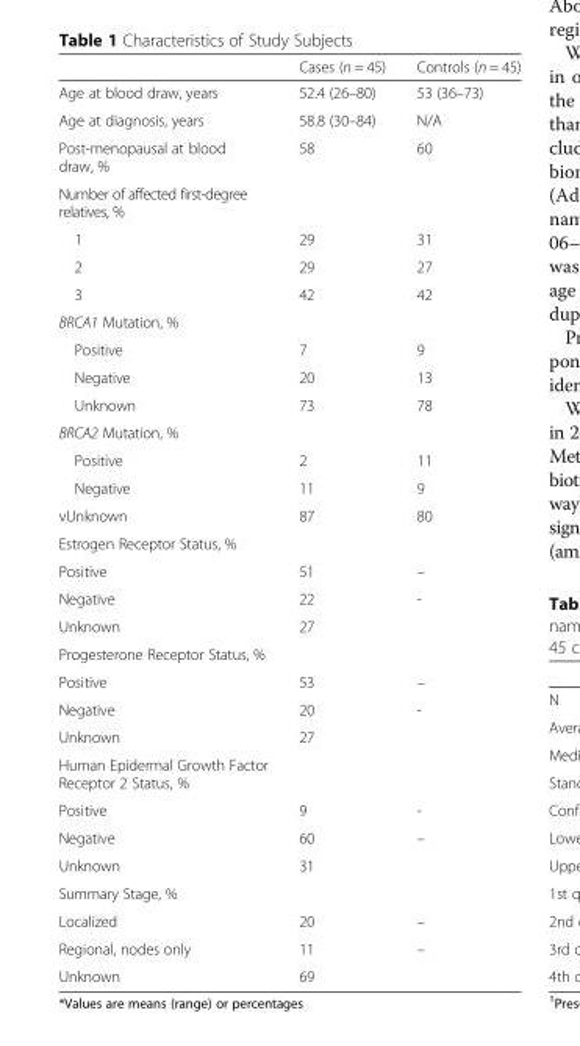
<table><thead><tr><td></td><td>Cases (n = 45)</td><td>Controls (n = 45)</td></tr></thead><tbody><tr><td>Age at blood draw, years</td><td>52.4 (26–80)</td><td>53 (36–73)</td></tr><tr><td>Age at diagnosis, years</td><td>58.8 (30–84)</td><td>N/A</td></tr><tr><td>Post-menopausal at blood draw, %</td><td>58</td><td>60</td></tr><tr><td colspan="3">Number of affected first-degree relatives, %</td></tr><tr><td>1</td><td>29</td><td>31</td></tr><tr><td>2</td><td>29</td><td>27</td></tr><tr><td>3</td><td>42</td><td>42</td></tr><tr><td colspan="3">BRCA1 Mutation, %</td></tr><tr><td>Positive</td><td>7</td><td>9</td></tr><tr><td>Negative</td><td>20</td><td>13</td></tr><tr><td>Unknown</td><td>73</td><td>78</td></tr><tr><td colspan="3">BRCA2 Mutation, %</td></tr><tr><td>Positive</td><td>2</td><td>11</td></tr><tr><td>Negative</td><td>11</td><td>9</td></tr><tr><td>vUnknown</td><td>87</td><td>80</td></tr><tr><td colspan="3">Estrogen Receptor Status, %</td></tr><tr><td>Positive</td><td>51</td><td>–</td></tr><tr><td>Negative</td><td>22</td><td>-</td></tr><tr><td>Unknown</td><td>27</td><td></td></tr><tr><td colspan="3">Progesterone Receptor Status, %</td></tr><tr><td>Positive</td><td>53</td><td>–</td></tr><tr><td>Negative</td><td>20</td><td>-</td></tr><tr><td>Unknown</td><td>27</td><td></td></tr><tr><td colspan="3">Human Epidermal Growth Factor Receptor 2 Status, %</td></tr><tr><td>Positive</td><td>9</td><td>-</td></tr><tr><td>Negative</td><td>60</td><td>–</td></tr><tr><td>Unknown</td><td>31</td><td></td></tr><tr><td colspan="3">Summary Stage, %</td></tr><tr><td>Localized</td><td>20</td><td>–</td></tr><tr><td>Regional, nodes only</td><td>11</td><td>–</td></tr><tr><td>Unknown</td><td>69</td><td></td></tr></tbody></table>